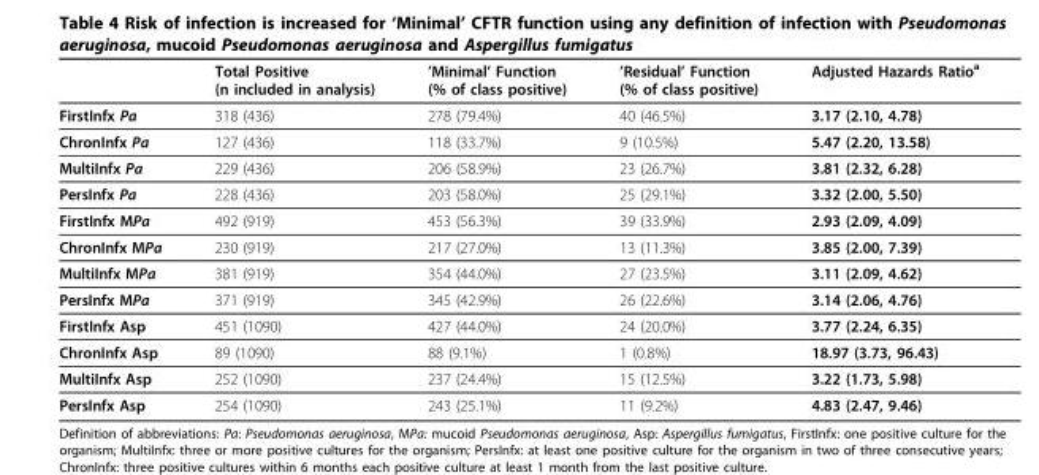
<table><thead><tr><td></td><td>Total Positive (n included in analysis)</td><td>’Minimal’ Function (% of class positive)</td><td>’Residual’ Function (% of class positive)</td><td>Adjusted Hazards Ratio<sup>a</sup></td></tr></thead><tbody><tr><td>FirstInfx Pa</td><td>318 (436)</td><td>278 (79.4%)</td><td>40 (46.5%)</td><td>3.17 (2.10, 4.78)</td></tr><tr><td>ChronInfx Pa</td><td>127 (436)</td><td>118 (33.7%)</td><td>9 (10.5%)</td><td>5.47 (2.20, 13.58)</td></tr><tr><td>MultiInfx Pa</td><td>229 (436)</td><td>206 (58.9%)</td><td>23 (26.7%)</td><td>3.81 (2.32, 6.28)</td></tr><tr><td>PersInfx Pa</td><td>228 (436)</td><td>203 (58.0%)</td><td>25 (29.1%)</td><td>3.32 (2.00, 5.50)</td></tr><tr><td>FirstInfx MPa</td><td>492 (919)</td><td>453 (56.3%)</td><td>39 (33.9%)</td><td>2.93 (2.09, 4.09)</td></tr><tr><td>ChronInfx MPa</td><td>230 (919)</td><td>217 (27.0%)</td><td>13 (11.3%)</td><td>3.85 (2.00, 7.39)</td></tr><tr><td>MultiInfx MPa</td><td>381 (919)</td><td>354 (44.0%)</td><td>27 (23.5%)</td><td>3.11 (2.09, 4.62)</td></tr><tr><td>PersInfx MPa</td><td>371 (919)</td><td>345 (42.9%)</td><td>26 (22.6%)</td><td>3.14 (2.06, 4.76)</td></tr><tr><td>FirstInfx Asp</td><td>451 (1090)</td><td>427 (44.0%)</td><td>24 (20.0%)</td><td>3.77 (2.24, 6.35)</td></tr><tr><td>ChronInfx Asp</td><td>89 (1090)</td><td>88 (9.1%)</td><td>1 (0.8%)</td><td>18.97 (3.73, 96.43)</td></tr><tr><td>MultiInfx Asp</td><td>252 (1090)</td><td>237 (24.4%)</td><td>15 (12.5%)</td><td>3.22 (1.73, 5.98)</td></tr><tr><td>PersInfx Asp</td><td>254 (1090)</td><td>243 (25.1%)</td><td>11 (9.2%)</td><td>4.83 (2.47, 9.46)</td></tr></tbody></table>